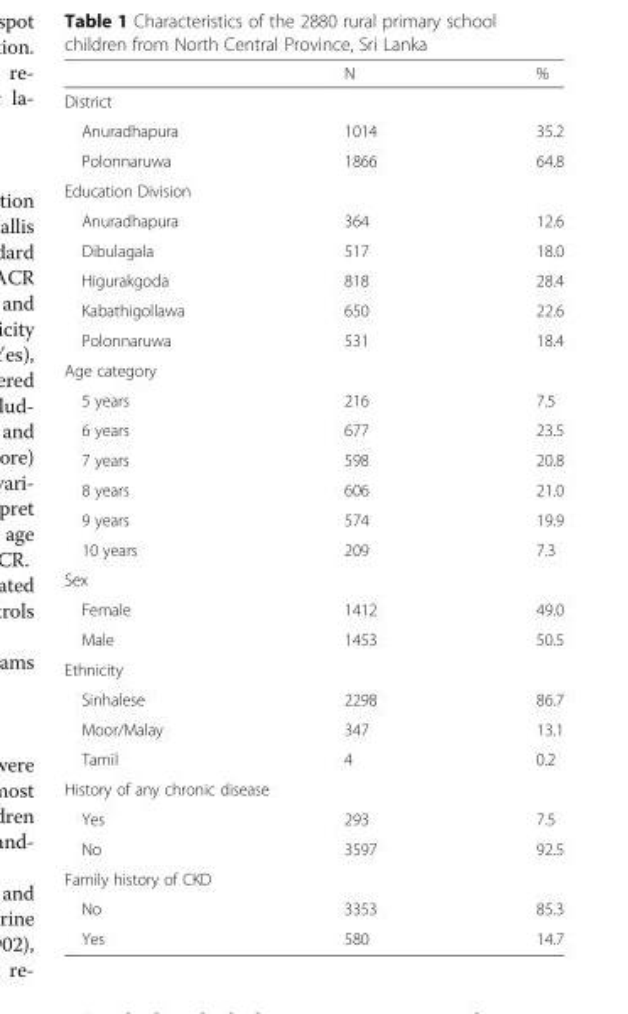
<table><thead><tr><td></td><td>N</td><td>%</td></tr></thead><tbody><tr><td colspan="3">District</td></tr><tr><td>Anuradhapura</td><td>1014</td><td>35.2</td></tr><tr><td>Polonnaruwa</td><td>1866</td><td>64.8</td></tr><tr><td colspan="3">Education Division</td></tr><tr><td>Anuradhapura</td><td>364</td><td>12.6</td></tr><tr><td>Dibulagala</td><td>517</td><td>18.0</td></tr><tr><td>Higurakgoda</td><td>818</td><td>28.4</td></tr><tr><td>Kabathigollawa</td><td>650</td><td>22.6</td></tr><tr><td>Polonnaruwa</td><td>531</td><td>18.4</td></tr><tr><td colspan="3">Age category</td></tr><tr><td>5 years</td><td>216</td><td>7.5</td></tr><tr><td>6 years</td><td>677</td><td>23.5</td></tr><tr><td>7 years</td><td>598</td><td>20.8</td></tr><tr><td>8 years</td><td>606</td><td>21.0</td></tr><tr><td>9 years</td><td>574</td><td>19.9</td></tr><tr><td>10 years</td><td>209</td><td>7.3</td></tr><tr><td colspan="3">Sex</td></tr><tr><td>Female</td><td>1412</td><td>49.0</td></tr><tr><td>Male</td><td>1453</td><td>50.5</td></tr><tr><td colspan="3">Ethnicity</td></tr><tr><td>Sinhalese</td><td>2298</td><td>86.7</td></tr><tr><td>Moor/Malay</td><td>347</td><td>13.1</td></tr><tr><td>Tamil</td><td>4</td><td>0.2</td></tr><tr><td colspan="3">History of any chronic disease</td></tr><tr><td>Yes</td><td>293</td><td>7.5</td></tr><tr><td>No</td><td>3597</td><td>92.5</td></tr><tr><td colspan="3">Family history of CKD</td></tr><tr><td>No</td><td>3353</td><td>85.3</td></tr><tr><td>Yes</td><td>580</td><td>14.7</td></tr></tbody></table>